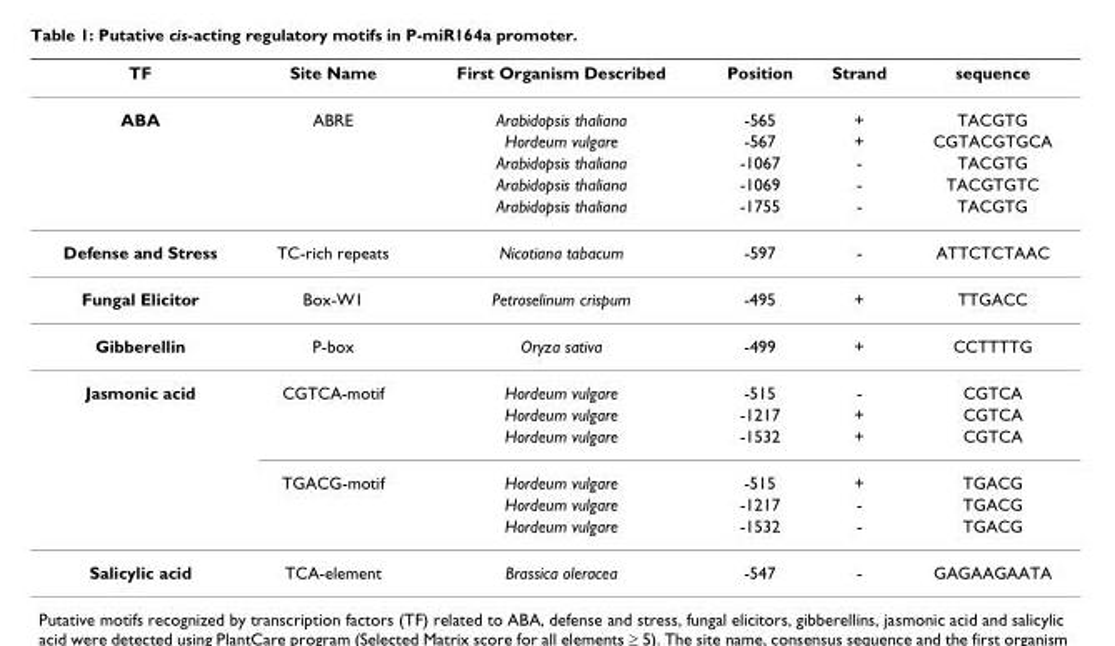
<table><thead><tr><td>TF</td><td>Site Name</td><td>First Organism Described</td><td>Position</td><td>Strand</td><td>sequence</td></tr></thead><tbody><tr><td rowspan="5">ABA</td><td>ABRE</td><td>Arabidopsis thaliana</td><td>-565</td><td>+</td><td>TACGTG</td></tr><tr><td></td><td>Hordeum vulgare</td><td>-567</td><td>+</td><td>CGTACGTGCA</td></tr><tr><td></td><td>Arabidopsis thaliana</td><td>-1067</td><td>-</td><td>TACGTG</td></tr><tr><td></td><td>Arabidopsis thaliana</td><td>-1069</td><td>-</td><td>TACGTGTC</td></tr><tr><td></td><td>Arabidopsis thaliana</td><td>-1755</td><td>-</td><td>TACGTG</td></tr><tr><td>Defense and Stress</td><td>TC-rich repeats</td><td>Nicotiana tabacum</td><td>-597</td><td>-</td><td>ATTCTCTAAC</td></tr><tr><td>Fungal Elicitor</td><td>Box-W1</td><td>Petroselinum crispum</td><td>-495</td><td>+</td><td>TTGACC</td></tr><tr><td>Gibberellin</td><td>P-box</td><td>Oryza sativa</td><td>-499</td><td>+</td><td>CCTTTTG</td></tr><tr><td rowspan="6">Jasmonic acid</td><td>CGTCA-motif</td><td>Hordeum vulgare</td><td>-515</td><td>-</td><td>CGTCA</td></tr><tr><td></td><td>Hordeum vulgare</td><td>-1217</td><td>+</td><td>CGTCA</td></tr><tr><td></td><td>Hordeum vulgare</td><td>-1532</td><td>+</td><td>CGTCA</td></tr><tr><td>TGACG-motif</td><td>Hordeum vulgare</td><td>-515</td><td>+</td><td>TGACG</td></tr><tr><td></td><td>Hordeum vulgare</td><td>-1217</td><td>-</td><td>TGACG</td></tr><tr><td></td><td>Hordeum vulgare</td><td>-1532</td><td>-</td><td>TGACG</td></tr><tr><td>Salicylic acid</td><td>TCA-element</td><td>Brassica oleracea</td><td>-547</td><td>-</td><td>GAGAAGAATA</td></tr></tbody></table>